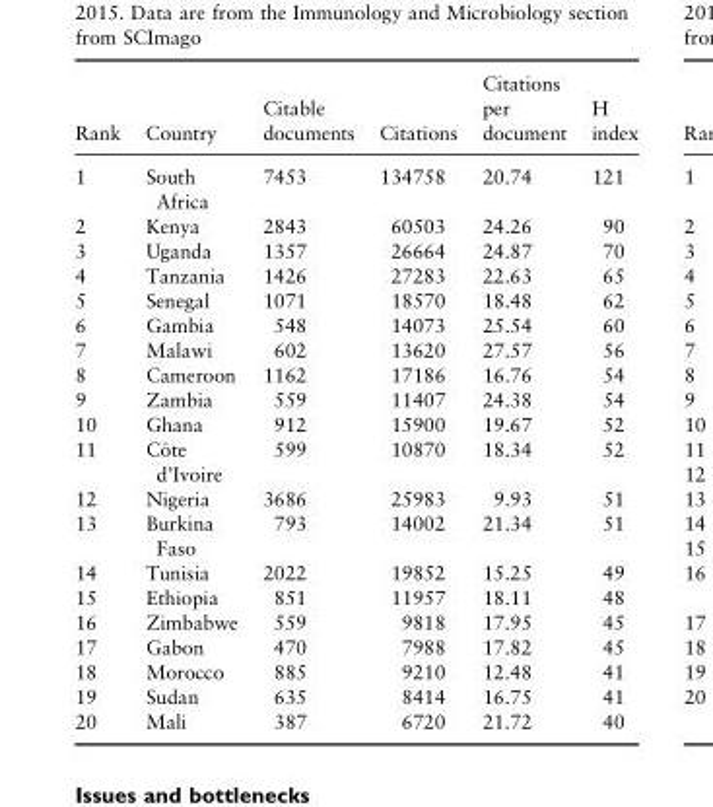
<table><thead><tr><td>Rank</td><td>Country</td><td>Citable documents</td><td>Citations</td><td>Citations per document</td><td>H index</td></tr></thead><tbody><tr><td>1</td><td>South Africa</td><td>7453</td><td>134758</td><td>20.74</td><td>121</td></tr><tr><td>2</td><td>Kenya</td><td>2843</td><td>60503</td><td>24.26</td><td>90</td></tr><tr><td>3</td><td>Uganda</td><td>1357</td><td>26664</td><td>24.87</td><td>70</td></tr><tr><td>4</td><td>Tanzania</td><td>1426</td><td>27283</td><td>22.63</td><td>65</td></tr><tr><td>5</td><td>Senegal</td><td>1071</td><td>18570</td><td>18.48</td><td>62</td></tr><tr><td>6</td><td>Gambia</td><td>548</td><td>14073</td><td>25.54</td><td>60</td></tr><tr><td>7</td><td>Malawi</td><td>602</td><td>13620</td><td>27.57</td><td>56</td></tr><tr><td>8</td><td>Cameroon</td><td>1162</td><td>17186</td><td>16.76</td><td>54</td></tr><tr><td>9</td><td>Zambia</td><td>559</td><td>11407</td><td>24.38</td><td>54</td></tr><tr><td>10</td><td>Ghana</td><td>912</td><td>15900</td><td>19.67</td><td>52</td></tr><tr><td>11</td><td>C^ote d’Ivoire</td><td>599</td><td>10870</td><td>18.34</td><td>52</td></tr><tr><td>12</td><td>Nigeria</td><td>3686</td><td>25983</td><td>9.93</td><td>51</td></tr><tr><td>13</td><td>Burkina Faso</td><td>793</td><td>14002</td><td>21.34</td><td>51</td></tr><tr><td>14</td><td>Tunisia</td><td>2022</td><td>19852</td><td>15.25</td><td>49</td></tr><tr><td>15</td><td>Ethiopia</td><td>851</td><td>11957</td><td>18.11</td><td>48</td></tr><tr><td>16</td><td>Zimbabwe</td><td>559</td><td>9818</td><td>17.95</td><td>45</td></tr><tr><td>17</td><td>Gabon</td><td>470</td><td>7988</td><td>17.82</td><td>45</td></tr><tr><td>18</td><td>Morocco</td><td>885</td><td>9210</td><td>12.48</td><td>41</td></tr><tr><td>19</td><td>Sudan</td><td>635</td><td>8414</td><td>16.75</td><td>41</td></tr><tr><td>20</td><td>Mali</td><td>387</td><td>6720</td><td>21.72</td><td>40</td></tr></tbody></table>